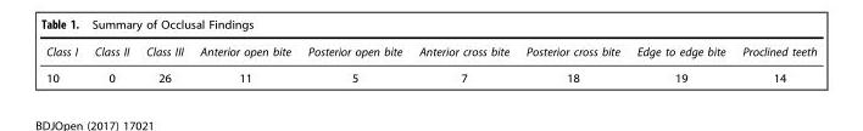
<table><thead><tr><td>Class I</td><td>Class II</td><td>Class III</td><td>Anterior open bite</td><td>Posterior open bite</td><td>Anterior cross bite</td><td>Posterior cross bite</td><td>Edge to edge bite</td><td>Proclined teeth</td></tr></thead><tbody><tr><td>10</td><td>0</td><td>26</td><td>11</td><td>5</td><td>7</td><td>18</td><td>19</td><td>14</td></tr></tbody></table>